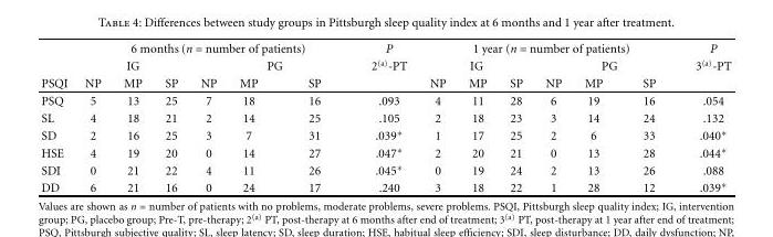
<table><thead><tr><td rowspan="3">PSQI</td><td colspan="6">6 months (n = number of patients)</td><td rowspan="3">P 2<sup>(a)</sup>-PT</td><td colspan="6">1 year (n = number of patients)</td><td rowspan="3">P 3<sup>(a)</sup>-PT</td></tr><tr><td colspan="3">IG</td><td colspan="3">PG</td><td colspan="3">IG</td><td colspan="3">PG</td></tr><tr><td>NP</td><td>MP</td><td>SP</td><td>NP</td><td>MP</td><td>SP</td><td>NP</td><td>MP</td><td>SP</td><td>NP</td><td>MP</td><td>SP</td></tr></thead><tbody><tr><td>PSQ</td><td>5</td><td>13</td><td>25</td><td>7</td><td>18</td><td>16</td><td>.093</td><td>4</td><td>11</td><td>28</td><td>6</td><td>19</td><td>16</td><td>.054</td></tr><tr><td>SL</td><td>4</td><td>18</td><td>21</td><td>2</td><td>14</td><td>25</td><td>.105</td><td>2</td><td>18</td><td>23</td><td>3</td><td>14</td><td>24</td><td>.132</td></tr><tr><td>SD</td><td>2</td><td>16</td><td>25</td><td>3</td><td>7</td><td>31</td><td>.039∗</td><td>1</td><td>17</td><td>25</td><td>2</td><td>6</td><td>33</td><td>.040∗</td></tr><tr><td>HSE</td><td>4</td><td>19</td><td>20</td><td>0</td><td>14</td><td>27</td><td>.047∗</td><td>2</td><td>20</td><td>21</td><td>0</td><td>13</td><td>28</td><td>.044∗</td></tr><tr><td>SDI</td><td>0</td><td>21</td><td>22</td><td>4</td><td>11</td><td>26</td><td>.045∗</td><td>0</td><td>19</td><td>24</td><td>2</td><td>13</td><td>26</td><td>.088</td></tr><tr><td>DD</td><td>6</td><td>21</td><td>16</td><td>0</td><td>24</td><td>17</td><td>.240</td><td>3</td><td>18</td><td>22</td><td>1</td><td>28</td><td>12</td><td>.039∗</td></tr></tbody></table>